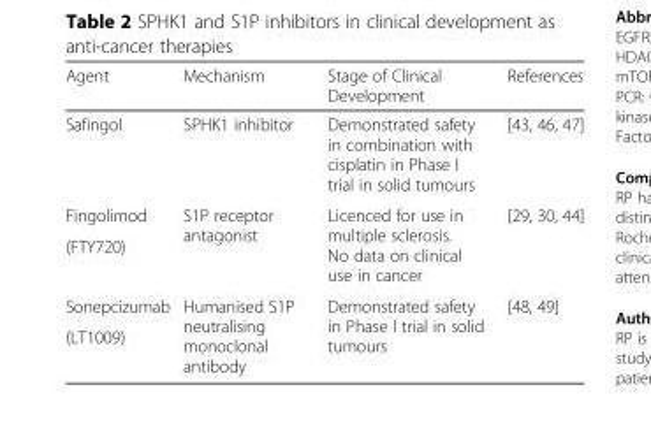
<table><thead><tr><td>Agent</td><td>Mechanism</td><td>Stage of Clinical Development</td><td>References</td></tr></thead><tbody><tr><td>Safingol</td><td>SPHK1 inhibitor</td><td>Demonstrated safety in combination with cisplatin in Phase I trial in solid tumours</td><td>[43, 46, 47]</td></tr><tr><td>Fingolimod</td><td rowspan="2">S1P receptor antagonist</td><td rowspan="2">Licenced for use in multiple sclerosis. No data on clinical use in cancer</td><td rowspan="2">[29, 30, 44]</td></tr><tr><td>(FTY720)</td></tr><tr><td>Sonepcizumab</td><td rowspan="2">Humanised S1P neutralising monoclonal antibody</td><td rowspan="2">Demonstrated safety in Phase I trial in solid tumours</td><td rowspan="2">[48, 49]</td></tr><tr><td>(LT1009)</td></tr></tbody></table>